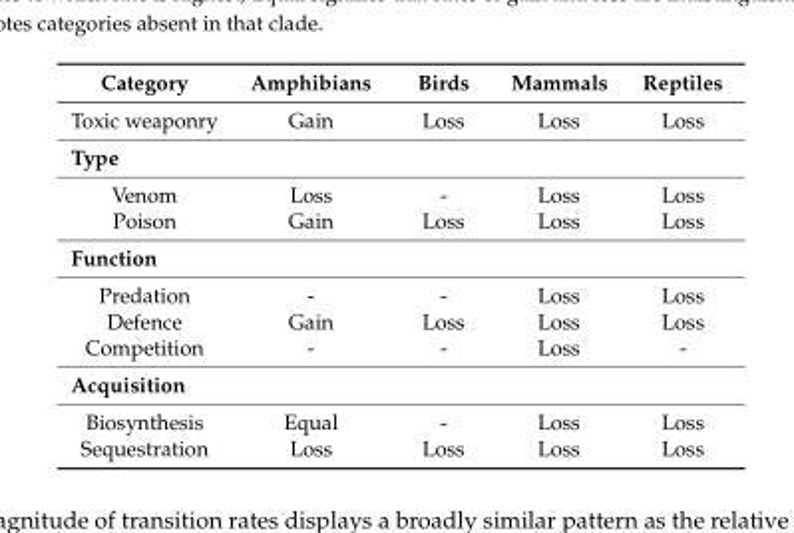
<table><thead><tr><td>Category</td><td>Amphibians</td><td>Birds</td><td>Mammals</td><td>Reptiles</td></tr></thead><tbody><tr><td>Toxic weaponry</td><td>Gain</td><td>Loss</td><td>Loss</td><td>Loss</td></tr><tr><td colspan="5">Type</td></tr><tr><td>Venom</td><td>Loss</td><td>-</td><td>Loss</td><td>Loss</td></tr><tr><td>Poison</td><td>Gain</td><td>Loss</td><td>Loss</td><td>Loss</td></tr><tr><td colspan="5">Function</td></tr><tr><td>Predation</td><td>-</td><td>-</td><td>Loss</td><td>Loss</td></tr><tr><td>Defence</td><td>Gain</td><td>Loss</td><td>Loss</td><td>Loss</td></tr><tr><td>Competition</td><td>-</td><td>-</td><td>Loss</td><td>-</td></tr><tr><td colspan="5">Acquisition</td></tr><tr><td>Biosynthesis</td><td>Equal</td><td>-</td><td>Loss</td><td>Loss</td></tr><tr><td>Sequestration</td><td>Loss</td><td>Loss</td><td>Loss</td><td>Loss</td></tr></tbody></table>